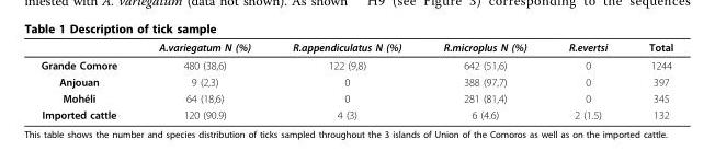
<table><thead><tr><td></td><td>A.variegatum N (%)</td><td>R.appendiculatus N (%)</td><td>R.microplus N (%)</td><td>R.evertsi</td><td>Total</td></tr></thead><tbody><tr><td>Grande Comore</td><td>480 (38,6)</td><td>122 (9,8)</td><td>642 (51,6)</td><td>0</td><td>1244</td></tr><tr><td>Anjouan</td><td>9 (2,3)</td><td>0</td><td>388 (97,7)</td><td>0</td><td>397</td></tr><tr><td>Mohéli</td><td>64 (18,6)</td><td>0</td><td>281 (81,4)</td><td>0</td><td>345</td></tr><tr><td>Imported cattle</td><td>120 (90.9)</td><td>4 (3)</td><td>6 (4.6)</td><td>2 (1.5)</td><td>132</td></tr></tbody></table>